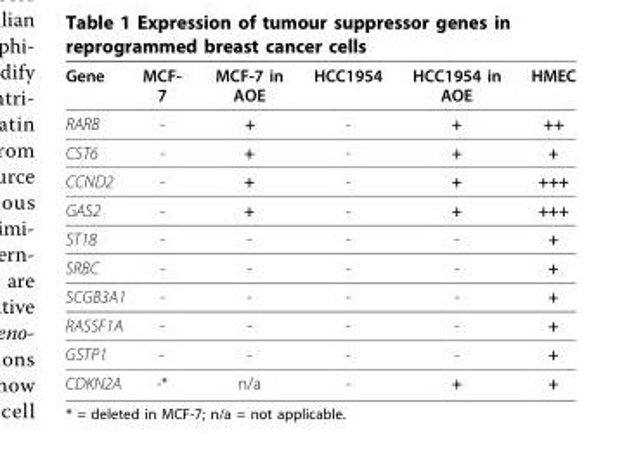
<table><thead><tr><td>Gene</td><td>MCF- 7</td><td>MCF-7 in AOE</td><td>HCC1954</td><td>HCC1954 in AOE</td><td>HMEC</td></tr></thead><tbody><tr><td>RARB</td><td>-</td><td>+</td><td>-</td><td>+</td><td>++</td></tr><tr><td>CST6</td><td>-</td><td>+</td><td>-</td><td>+</td><td>+</td></tr><tr><td>CCND2</td><td>-</td><td>+</td><td>-</td><td>+</td><td>+++</td></tr><tr><td>GAS2</td><td>-</td><td>+</td><td>-</td><td>+</td><td>+++</td></tr><tr><td>ST18</td><td>-</td><td>-</td><td>-</td><td>-</td><td>+</td></tr><tr><td>SRBC</td><td>-</td><td>-</td><td>-</td><td>-</td><td>+</td></tr><tr><td>SCGB3A1</td><td>-</td><td>-</td><td>-</td><td>-</td><td>+</td></tr><tr><td>RASSF1A</td><td>-</td><td>-</td><td>-</td><td>-</td><td>+</td></tr><tr><td>GSTP1</td><td>-</td><td>-</td><td>-</td><td>-</td><td>+</td></tr><tr><td>CDKN2A</td><td>-*</td><td>n/a</td><td>-</td><td>+</td><td>+</td></tr></tbody></table>